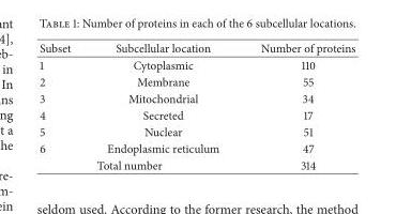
<table><thead><tr><td>Subset</td><td>Subcellular location</td><td>Number of proteins</td></tr></thead><tbody><tr><td>1</td><td>Cytoplasmic</td><td>110</td></tr><tr><td>2</td><td>Membrane</td><td>55</td></tr><tr><td>3</td><td>Mitochondrial</td><td>34</td></tr><tr><td>4</td><td>Secreted</td><td>17</td></tr><tr><td>5</td><td>Nuclear</td><td>51</td></tr><tr><td>6</td><td>Endoplasmic reticulum</td><td>47</td></tr><tr><td colspan="2">Total number</td><td>314</td></tr></tbody></table>